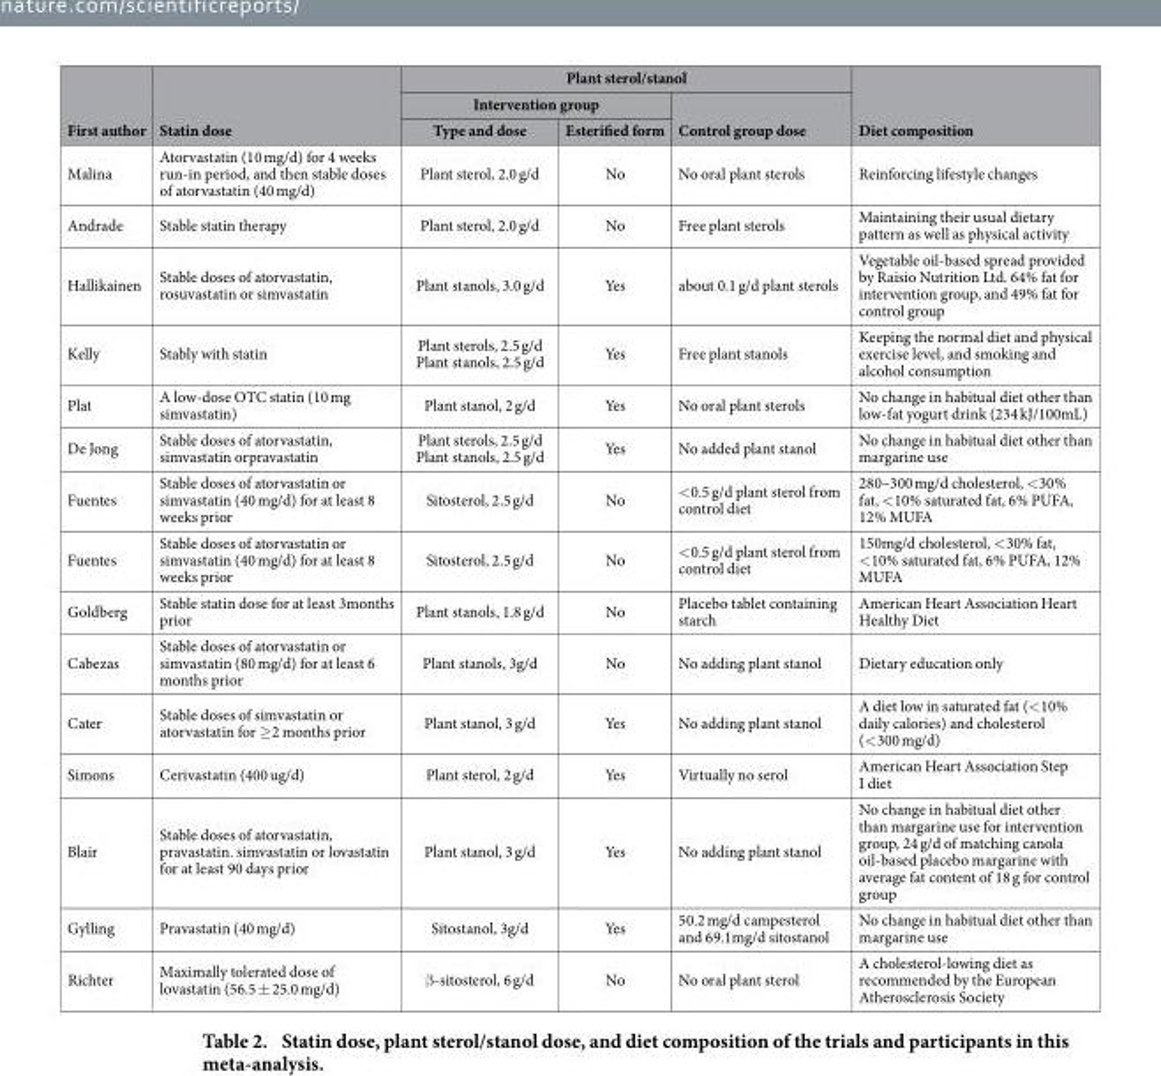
<table><thead><tr><td rowspan="3">First author</td><td rowspan="3">Statin dose</td><td colspan="3">Plant sterol/stanol</td><td rowspan="3">Diet composition</td></tr><tr><td colspan="2">Intervention group</td><td rowspan="2">Control group dose</td></tr><tr><td>Type and dose</td><td>Esterified form</td></tr></thead><tbody><tr><td>Malina</td><td>Atorvastatin (10 mg/d) for 4 weeks run-in period, and then stable doses of atorvastatin (40 mg/d)</td><td>Plant sterol, 2.0 g/d</td><td>No</td><td>No oral plant sterols</td><td>Reinforcing lifestyle changes</td></tr><tr><td>Andrade</td><td>Stable statin therapy</td><td>Plant sterol, 2.0 g/d</td><td>No</td><td>Free plant sterols</td><td>Maintaining their usual dietary pattern as well as physical activity</td></tr><tr><td>Hallikainen</td><td>Stable doses of atorvastatin, rosuvastatin or simvastatin</td><td>Plant stanols, 3.0 g/d</td><td>Yes</td><td>about 0.1 g/d plant sterols</td><td>Vegetable oil-based spread provided by Raisio Nutrition Ltd. 64% fat for intervention group, and 49% fat for control group</td></tr><tr><td>Kelly</td><td>Stably with statin</td><td>Plant sterols, 2.5 g/d Plant stanols, 2.5 g/d</td><td>Yes</td><td>Free plant stanols</td><td>Keeping the normal diet and physical exercise level, and smoking and alcohol consumption</td></tr><tr><td>Plat</td><td>A low-dose OTC statin (10 mg simvastatin)</td><td>Plant stanol, 2 g/d</td><td>Yes</td><td>No oral plant sterols</td><td>No change in habitual diet other than low-fat yogurt drink (234 kJ/100mL)</td></tr><tr><td>De Jong</td><td>Stable doses of atorvastatin, simvastatin orpravastatin</td><td>Plant sterols, 2.5 g/d Plant stanols, 2.5 g/d</td><td>Yes</td><td>No added plant stanol</td><td>No change in habitual diet other than margarine use</td></tr><tr><td>Fuentes</td><td>Stable doses of atorvastatin or simvastatin (40 mg/d) for at least 8 weeks prior</td><td>Sitosterol, 2.5 g/d</td><td>No</td><td>&lt; 0.5 g/d plant sterol from control diet</td><td>280–300 mg/d cholesterol, &lt; 30% fat, &lt; 10% saturated fat, 6% PUFA, 12% MUFA</td></tr><tr><td>Fuentes</td><td>Stable doses of atorvastatin or simvastatin (40 mg/d) for at least 8 weeks prior</td><td>Sitosterol, 2.5 g/d</td><td>No</td><td>&lt; 0.5 g/d plant sterol from control diet</td><td>150mg/d cholesterol, &lt; 30% fat, &lt; 10% saturated fat, 6% PUFA, 12% MUFA</td></tr><tr><td>Goldberg</td><td>Stable statin dose for at least 3months prior</td><td>Plant stanols, 1.8 g/d</td><td>No</td><td>Placebo tablet containing starch</td><td>American Heart Association Heart Healthy Diet</td></tr><tr><td>Cabezas</td><td>Stable doses of atorvastatin or simvastatin (80 mg/d) for at least 6 months prior</td><td>Plant stanols, 3g/d</td><td>No</td><td>No adding plant stanol</td><td>Dietary education only</td></tr><tr><td>Cater</td><td>Stable doses of simvastatin or atorvastatin for ≥ 2 months prior</td><td>Plant stanol, 3 g/d</td><td>Yes</td><td>No adding plant stanol</td><td>A diet low in saturated fat (&lt; 10% daily calories) and cholesterol (&lt; 300 mg/d)</td></tr><tr><td>Simons</td><td>Cerivastatin (400 ug/d)</td><td>Plant sterol, 2 g/d</td><td>Yes</td><td>Virtually no serol</td><td>American Heart Association Step I diet</td></tr><tr><td>Blair</td><td>Stable doses of atorvastatin, pravastatin. simvastatin or lovastatin for at least 90 days prior</td><td>Plant stanol, 3 g/d</td><td>Yes</td><td>No adding plant stanol</td><td>No change in habitual diet other than margarine use for intervention group, 24 g/d of matching canola oil-based placebo margarine with average fat content of 18 g for control group</td></tr><tr><td>Gylling</td><td>Pravastatin (40 mg/d)</td><td>Sitostanol, 3g/d</td><td>Yes</td><td>50.2 mg/d campesterol and 69.1mg/d sitostanol</td><td>No change in habitual diet other than margarine use</td></tr><tr><td>Richter</td><td>Maximally tolerated dose of lovastatin (56.5 ± 25.0 mg/d)</td><td>β -sitosterol, 6 g/d</td><td>No</td><td>No oral plant sterol</td><td>A cholesterol-lowing diet as recommended by the European Atherosclerosis Society</td></tr></tbody></table>